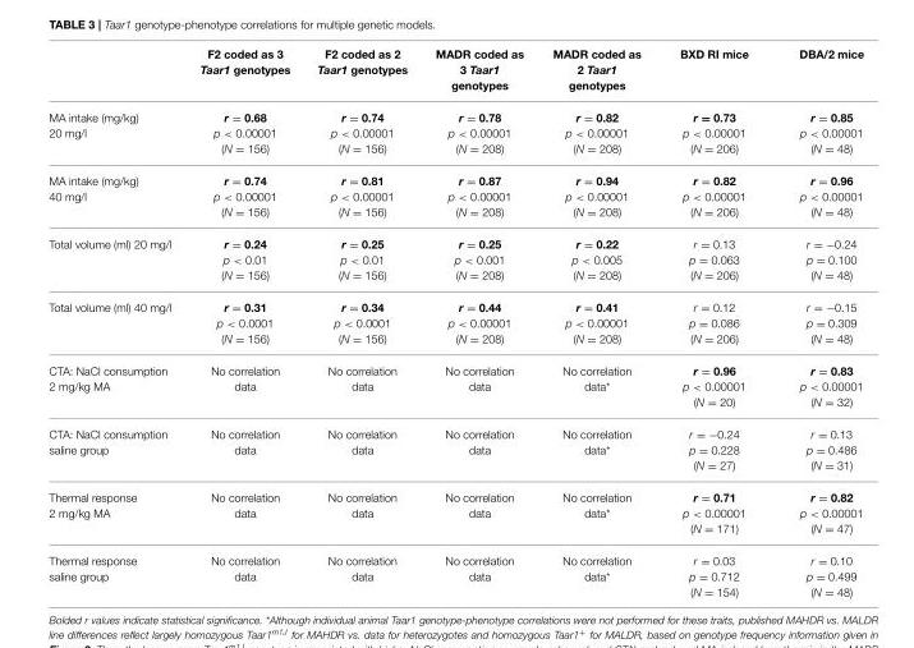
<table><thead><tr><td></td><td>F2 coded as 3 Taar1 genotypes</td><td>F2 coded as 2 Taar1 genotypes</td><td>MADR coded as 3 Taar1 genotypes</td><td>MADR coded as 2 Taar1 genotypes</td><td>BXD RI mice</td><td>DBA/2 mice</td></tr></thead><tbody><tr><td>MA intake (mg/kg) 20 mg/l</td><td>r = 0.68 p &lt; 0.00001 (N = 156)</td><td>r = 0.74 p &lt; 0.00001 (N = 156)</td><td>r = 0.78 p &lt; 0.00001 (N = 208)</td><td>r = 0.82 p &lt; 0.00001 (N = 208)</td><td>r = 0.73 p &lt; 0.00001 (N = 206)</td><td>r = 0.85 p &lt; 0.00001 (N = 48)</td></tr><tr><td>MA intake (mg/kg) 40 mg/l</td><td>r = 0.74 p &lt; 0.00001 (N = 156)</td><td>r = 0.81 p &lt; 0.00001 (N = 156)</td><td>r = 0.87 p &lt; 0.00001 (N = 208)</td><td>r = 0.94 p &lt; 0.00001 (N = 208)</td><td>r = 0.82 p &lt; 0.00001 (N = 206)</td><td>r = 0.96 p &lt; 0.00001 (N = 48)</td></tr><tr><td>Total volume (ml) 20 mg/l</td><td>r = 0.24 p &lt; 0.01 (N = 156)</td><td>r = 0.25 p &lt; 0.01 (N = 156)</td><td>r = 0.25 p &lt; 0.001 (N = 208)</td><td>r = 0.22 p &lt; 0.005 (N = 208)</td><td>r = 0.13 p = 0.063 (N = 206)</td><td>r = −0.24 p = 0.100 (N = 48)</td></tr><tr><td>Total volume (ml) 40 mg/l</td><td>r = 0.31 p &lt; 0.0001 (N = 156)</td><td>r = 0.34 p &lt; 0.0001 (N = 156)</td><td>r = 0.44 p &lt; 0.00001 (N = 208)</td><td>r = 0.41 p &lt; 0.00001 (N = 208)</td><td>r = 0.12 p = 0.086 (N = 206)</td><td>r = −0.15 p = 0.309 (N = 48)</td></tr><tr><td>CTA: NaCl consumption 2 mg/kg MA</td><td>No correlation data</td><td>No correlation data</td><td>No correlation data</td><td>No correlation data*</td><td>r = 0.96 p &lt; 0.00001 (N = 20)</td><td>r = 0.83 p &lt; 0.00001 (N = 32)</td></tr><tr><td>CTA: NaCl consumption saline group</td><td>No correlation data</td><td>No correlation data</td><td>No correlation data</td><td>No correlation data*</td><td>r = −0.24 p = 0.228 (N = 27)</td><td>r = 0.13 p = 0.486 (N = 31)</td></tr><tr><td>Thermal response 2 mg/kg MA</td><td>No correlation data</td><td>No correlation data</td><td>No correlation data</td><td>No correlation data*</td><td>r = 0.71 p &lt; 0.00001 (N = 171)</td><td>r = 0.82 p &lt; 0.00001 (N = 47)</td></tr><tr><td>Thermal response saline group</td><td>No correlation data</td><td>No correlation data</td><td>No correlation data</td><td>No correlation data*</td><td>r = 0.03 p = 0.712 (N = 154)</td><td>r = 0.10 p = 0.499 (N = 48)</td></tr></tbody></table>